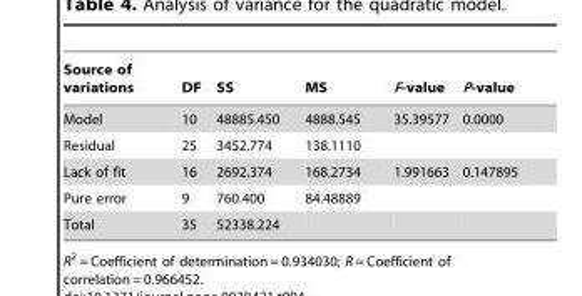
<table><thead><tr><td>Source of variations</td><td>DF</td><td>SS</td><td>MS</td><td>F-value</td><td>P-value</td></tr></thead><tbody><tr><td>Model</td><td>10</td><td>48885.450</td><td>4888.545</td><td>35.39577</td><td>0.0000</td></tr><tr><td>Residual</td><td>25</td><td>3452.774</td><td>138.1110</td><td></td><td></td></tr><tr><td>Lack of fit</td><td>16</td><td>2692.374</td><td>168.2734</td><td>1.991663</td><td>0.147895</td></tr><tr><td>Pure error</td><td>9</td><td>760.400</td><td>84.48889</td><td></td><td></td></tr><tr><td>Total</td><td>35</td><td>52338.224</td><td></td><td></td><td></td></tr></tbody></table>